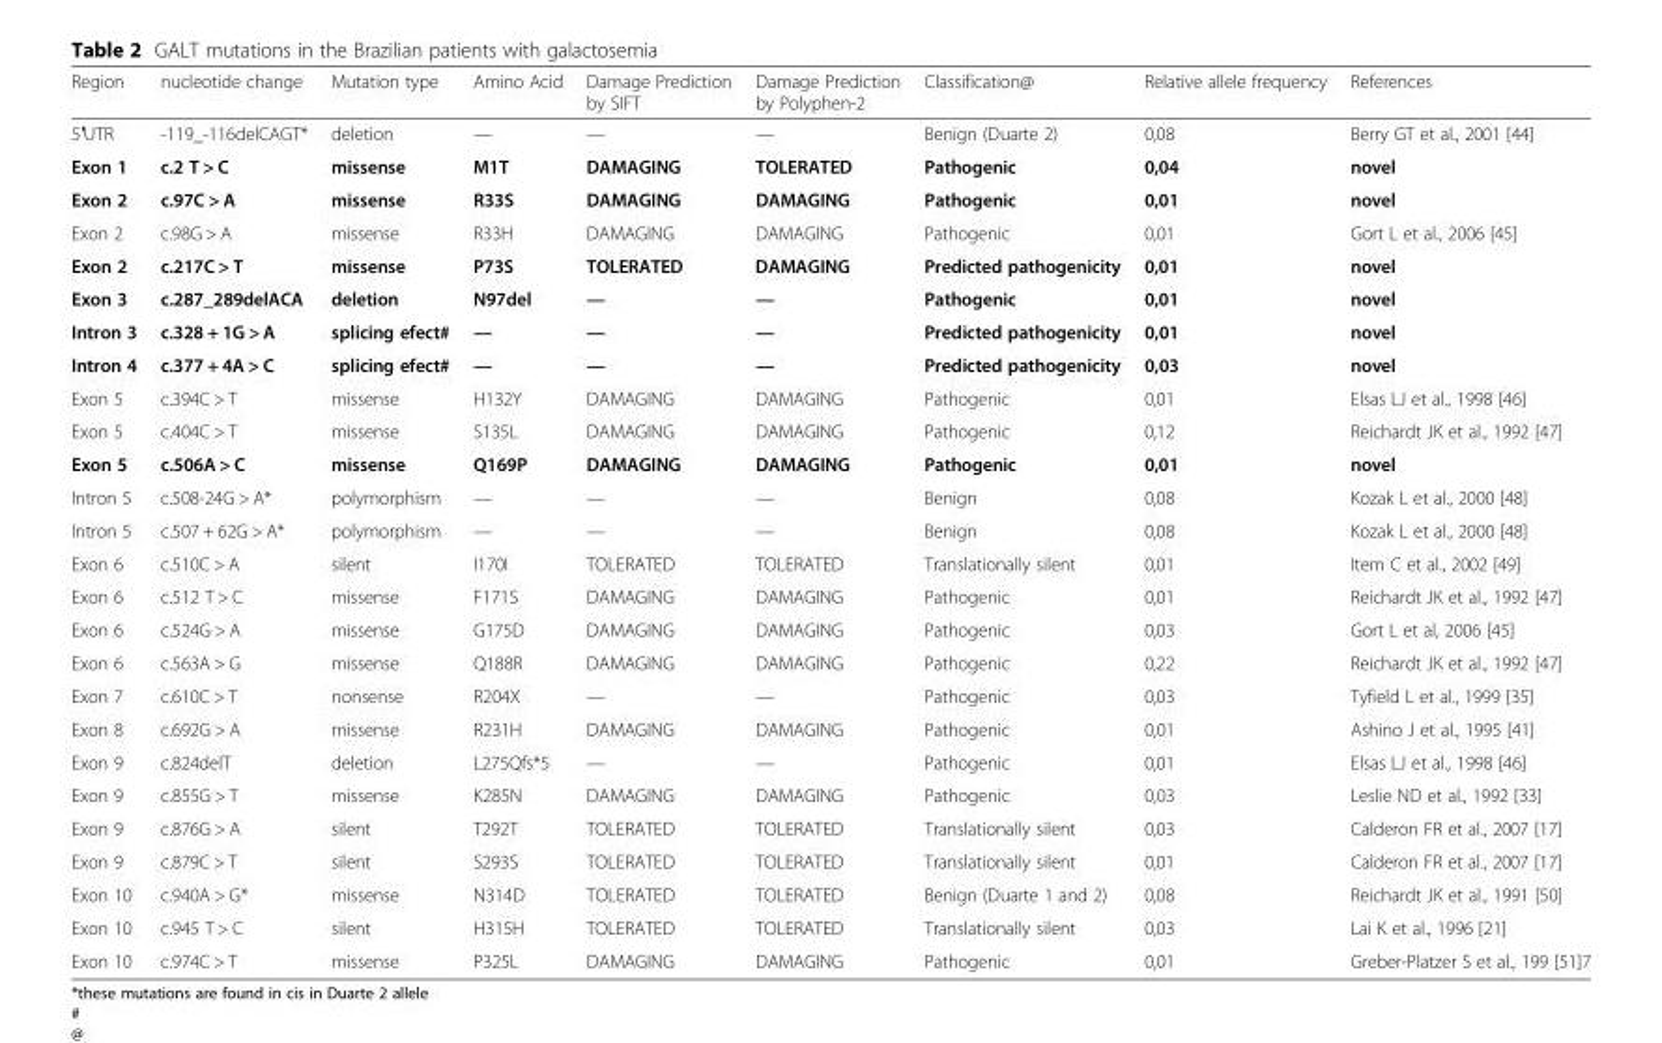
<table><thead><tr><td>Region</td><td>nucleotide change</td><td>Mutation type</td><td>Amino Acid</td><td>Damage Prediction by SIFT</td><td>Damage Prediction by Polyphen-2</td><td>Classification@</td><td>Relative allele frequency</td><td>References</td></tr></thead><tbody><tr><td>5′UTR</td><td>-119_-116delCAGT*</td><td>deletion</td><td>—</td><td>—</td><td>—</td><td>Benign (Duarte 2)</td><td>0,08</td><td>Berry GT et al., 2001 [44]</td></tr><tr><td>Exon 1</td><td>c.2 T &gt; C</td><td>missense</td><td>M1T</td><td>DAMAGING</td><td>TOLERATED</td><td>Pathogenic</td><td>0,04</td><td>novel</td></tr><tr><td>Exon 2</td><td>c.97C &gt; A</td><td>missense</td><td>R33S</td><td>DAMAGING</td><td>DAMAGING</td><td>Pathogenic</td><td>0,01</td><td>novel</td></tr><tr><td>Exon 2</td><td>c.98G &gt; A</td><td>missense</td><td>R33H</td><td>DAMAGING</td><td>DAMAGING</td><td>Pathogenic</td><td>0,01</td><td>Gort L et al., 2006 [45]</td></tr><tr><td>Exon 2</td><td>c.217C &gt; T</td><td>missense</td><td>P73S</td><td>TOLERATED</td><td>DAMAGING</td><td>Predicted pathogenicity</td><td>0,01</td><td>novel</td></tr><tr><td>Exon 3</td><td>c.287_289delACA</td><td>deletion</td><td>N97del</td><td>—</td><td>—</td><td>Pathogenic</td><td>0,01</td><td>novel</td></tr><tr><td>Intron 3</td><td>c.328 + 1G &gt; A</td><td>splicing efect#</td><td>—</td><td>—</td><td>—</td><td>Predicted pathogenicity</td><td>0,01</td><td>novel</td></tr><tr><td>Intron 4</td><td>c.377 + 4A &gt; C</td><td>splicing efect#</td><td>—</td><td>—</td><td>—</td><td>Predicted pathogenicity</td><td>0,03</td><td>novel</td></tr><tr><td>Exon 5</td><td>c.394C &gt; T</td><td>missense</td><td>H132Y</td><td>DAMAGING</td><td>DAMAGING</td><td>Pathogenic</td><td>0,01</td><td>Elsas LJ et al., 1998 [46]</td></tr><tr><td>Exon 5</td><td>c.404C &gt; T</td><td>missense</td><td>S135L</td><td>DAMAGING</td><td>DAMAGING</td><td>Pathogenic</td><td>0,12</td><td>Reichardt JK et al., 1992 [47]</td></tr><tr><td>Exon 5</td><td>c.506A &gt; C</td><td>missense</td><td>Q169P</td><td>DAMAGING</td><td>DAMAGING</td><td>Pathogenic</td><td>0,01</td><td>novel</td></tr><tr><td>Intron 5</td><td>c.508-24G &gt; A*</td><td>polymorphism</td><td>—</td><td>—</td><td>—</td><td>Benign</td><td>0,08</td><td>Kozak L et al., 2000 [48]</td></tr><tr><td>Intron 5</td><td>c.507 + 62G &gt; A*</td><td>polymorphism</td><td>—</td><td>—</td><td>—</td><td>Benign</td><td>0,08</td><td>Kozak L et al., 2000 [48]</td></tr><tr><td>Exon 6</td><td>c.510C &gt; A</td><td>silent</td><td>I170I</td><td>TOLERATED</td><td>TOLERATED</td><td>Translationally silent</td><td>0,01</td><td>Item C et al., 2002 [49]</td></tr><tr><td>Exon 6</td><td>c.512 T &gt; C</td><td>missense</td><td>F171S</td><td>DAMAGING</td><td>DAMAGING</td><td>Pathogenic</td><td>0,01</td><td>Reichardt JK et al., 1992 [47]</td></tr><tr><td>Exon 6</td><td>c.524G &gt; A</td><td>missense</td><td>G175D</td><td>DAMAGING</td><td>DAMAGING</td><td>Pathogenic</td><td>0,03</td><td>Gort L et al, 2006 [45]</td></tr><tr><td>Exon 6</td><td>c.563A &gt; G</td><td>missense</td><td>Q188R</td><td>DAMAGING</td><td>DAMAGING</td><td>Pathogenic</td><td>0,22</td><td>Reichardt JK et al., 1992 [47]</td></tr><tr><td>Exon 7</td><td>c.610C &gt; T</td><td>nonsense</td><td>R204X</td><td>—</td><td>—</td><td>Pathogenic</td><td>0,03</td><td>Tyfield L et al., 1999 [35]</td></tr><tr><td>Exon 8</td><td>c.692G &gt; A</td><td>missense</td><td>R231H</td><td>DAMAGING</td><td>DAMAGING</td><td>Pathogenic</td><td>0,01</td><td>Ashino J et al., 1995 [41]</td></tr><tr><td>Exon 9</td><td>c.824delT</td><td>deletion</td><td>L275Qfs*5</td><td>—</td><td>—</td><td>Pathogenic</td><td>0,01</td><td>Elsas LJ et al., 1998 [46]</td></tr><tr><td>Exon 9</td><td>c.855G &gt; T</td><td>missense</td><td>K285N</td><td>DAMAGING</td><td>DAMAGING</td><td>Pathogenic</td><td>0,03</td><td>Leslie ND et al., 1992 [33]</td></tr><tr><td>Exon 9</td><td>c.876G &gt; A</td><td>silent</td><td>T292T</td><td>TOLERATED</td><td>TOLERATED</td><td>Translationally silent</td><td>0,03</td><td>Calderon FR et al., 2007 [17]</td></tr><tr><td>Exon 9</td><td>c.879C &gt; T</td><td>silent</td><td>S293S</td><td>TOLERATED</td><td>TOLERATED</td><td>Translationally silent</td><td>0,01</td><td>Calderon FR et al., 2007 [17]</td></tr><tr><td>Exon 10</td><td>c.940A &gt; G*</td><td>missense</td><td>N314D</td><td>TOLERATED</td><td>TOLERATED</td><td>Benign (Duarte 1 and 2)</td><td>0,08</td><td>Reichardt JK et al., 1991 [50]</td></tr><tr><td>Exon 10</td><td>c.945 T &gt; C</td><td>silent</td><td>H315H</td><td>TOLERATED</td><td>TOLERATED</td><td>Translationally silent</td><td>0,03</td><td>Lai K et al., 1996 [21]</td></tr><tr><td>Exon 10</td><td>c.974C &gt; T</td><td>missense</td><td>P325L</td><td>DAMAGING</td><td>DAMAGING</td><td>Pathogenic</td><td>0,01</td><td>Greber-Platzer S et al., 199 [51]7</td></tr></tbody></table>